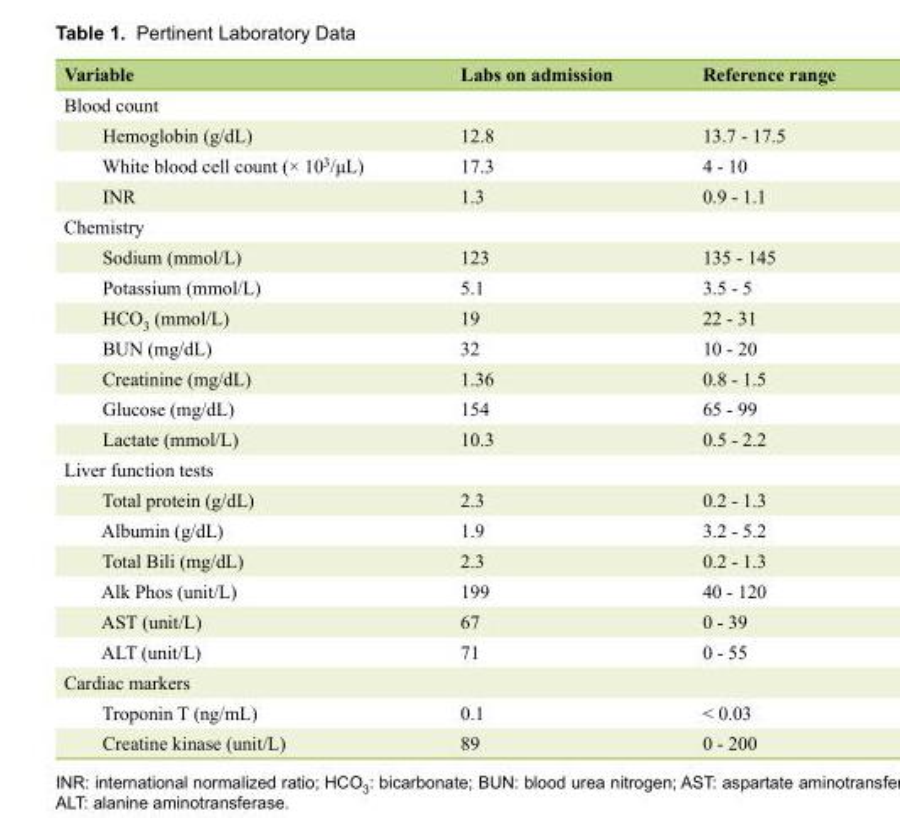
<table><thead><tr><td>Variable</td><td>Labs on admission</td><td>Reference range</td></tr></thead><tbody><tr><td colspan="3">Blood count</td></tr><tr><td>Hemoglobin (g/dL)</td><td>12.8</td><td>13.7 - 17.5</td></tr><tr><td>White blood cell count (× 10<sup>3</sup>/μL)</td><td>17.3</td><td>4 - 10</td></tr><tr><td>INR</td><td>1.3</td><td>0.9 - 1.1</td></tr><tr><td colspan="3">Chemistry</td></tr><tr><td>Sodium (mmol/L)</td><td>123</td><td>135 - 145</td></tr><tr><td>Potassium (mmol/L)</td><td>5.1</td><td>3.5 - 5</td></tr><tr><td>HCO<sub>3</sub> (mmol/L)</td><td>19</td><td>22 - 31</td></tr><tr><td>BUN (mg/dL)</td><td>32</td><td>10 - 20</td></tr><tr><td>Creatinine (mg/dL)</td><td>1.36</td><td>0.8 - 1.5</td></tr><tr><td>Glucose (mg/dL)</td><td>154</td><td>65 - 99</td></tr><tr><td>Lactate (mmol/L)</td><td>10.3</td><td>0.5 - 2.2</td></tr><tr><td colspan="3">Liver function tests</td></tr><tr><td>Total protein (g/dL)</td><td>2.3</td><td>0.2 - 1.3</td></tr><tr><td>Albumin (g/dL)</td><td>1.9</td><td>3.2 - 5.2</td></tr><tr><td>Total Bili (mg/dL)</td><td>2.3</td><td>0.2 - 1.3</td></tr><tr><td>Alk Phos (unit/L)</td><td>199</td><td>40 - 120</td></tr><tr><td>AST (unit/L)</td><td>67</td><td>0 - 39</td></tr><tr><td>ALT (unit/L)</td><td>71</td><td>0 - 55</td></tr><tr><td colspan="3">Cardiac markers</td></tr><tr><td>Troponin T (ng/mL)</td><td>0.1</td><td>&lt; 0.03</td></tr><tr><td>Creatine kinase (unit/L)</td><td>89</td><td>0 - 200</td></tr></tbody></table>